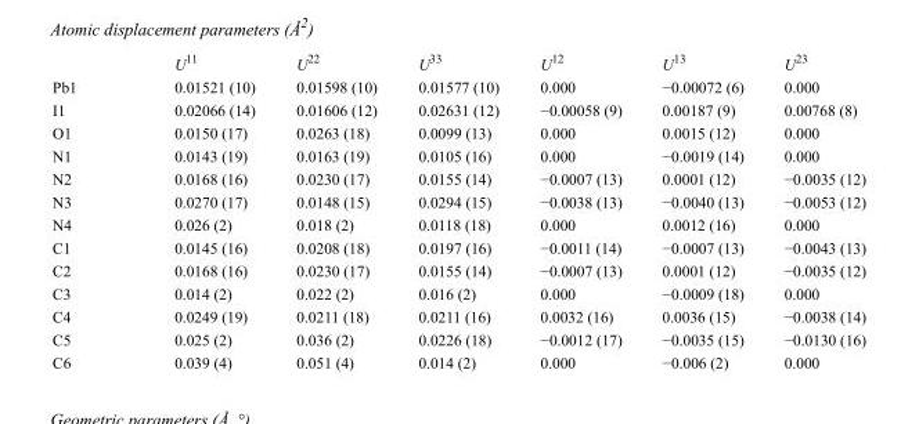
<table><thead><tr><td></td><td>U<sup>11</sup></td><td>U<sup>22</sup></td><td>U<sup>33</sup></td><td>U<sup>12</sup></td><td>U<sup>13</sup></td><td>U<sup>23</sup></td></tr></thead><tbody><tr><td>Pb1</td><td>0.01521 (10)</td><td>0.01598 (10)</td><td>0.01577 (10)</td><td>0.000</td><td>−0.00072 (6)</td><td>0.000</td></tr><tr><td>I1</td><td>0.02066 (14)</td><td>0.01606 (12)</td><td>0.02631 (12)</td><td>−0.00058 (9)</td><td>0.00187 (9)</td><td>0.00768 (8)</td></tr><tr><td>O1</td><td>0.0150 (17)</td><td>0.0263 (18)</td><td>0.0099 (13)</td><td>0.000</td><td>0.0015 (12)</td><td>0.000</td></tr><tr><td>N1</td><td>0.0143 (19)</td><td>0.0163 (19)</td><td>0.0105 (16)</td><td>0.000</td><td>−0.0019 (14)</td><td>0.000</td></tr><tr><td>N2</td><td>0.0168 (16)</td><td>0.0230 (17)</td><td>0.0155 (14)</td><td>−0.0007 (13)</td><td>0.0001 (12)</td><td>−0.0035 (12)</td></tr><tr><td>N3</td><td>0.0270 (17)</td><td>0.0148 (15)</td><td>0.0294 (15)</td><td>−0.0038 (13)</td><td>−0.0040 (13)</td><td>−0.0053 (12)</td></tr><tr><td>N4</td><td>0.026 (2)</td><td>0.018 (2)</td><td>0.0118 (18)</td><td>0.000</td><td>0.0012 (16)</td><td>0.000</td></tr><tr><td>C1</td><td>0.0145 (16)</td><td>0.0208 (18)</td><td>0.0197 (16)</td><td>−0.0011 (14)</td><td>−0.0007 (13)</td><td>−0.0043 (13)</td></tr><tr><td>C2</td><td>0.0168 (16)</td><td>0.0230 (17)</td><td>0.0155 (14)</td><td>−0.0007 (13)</td><td>0.0001 (12)</td><td>−0.0035 (12)</td></tr><tr><td>C3</td><td>0.014 (2)</td><td>0.022 (2)</td><td>0.016 (2)</td><td>0.000</td><td>−0.0009 (18)</td><td>0.000</td></tr><tr><td>C4</td><td>0.0249 (19)</td><td>0.0211 (18)</td><td>0.0211 (16)</td><td>0.0032 (16)</td><td>0.0036 (15)</td><td>−0.0038 (14)</td></tr><tr><td>C5</td><td>0.025 (2)</td><td>0.036 (2)</td><td>0.0226 (18)</td><td>−0.0012 (17)</td><td>−0.0035 (15)</td><td>−0.0130 (16)</td></tr><tr><td>C6</td><td>0.039 (4)</td><td>0.051 (4)</td><td>0.014 (2)</td><td>0.000</td><td>−0.006 (2)</td><td>0.000</td></tr></tbody></table>